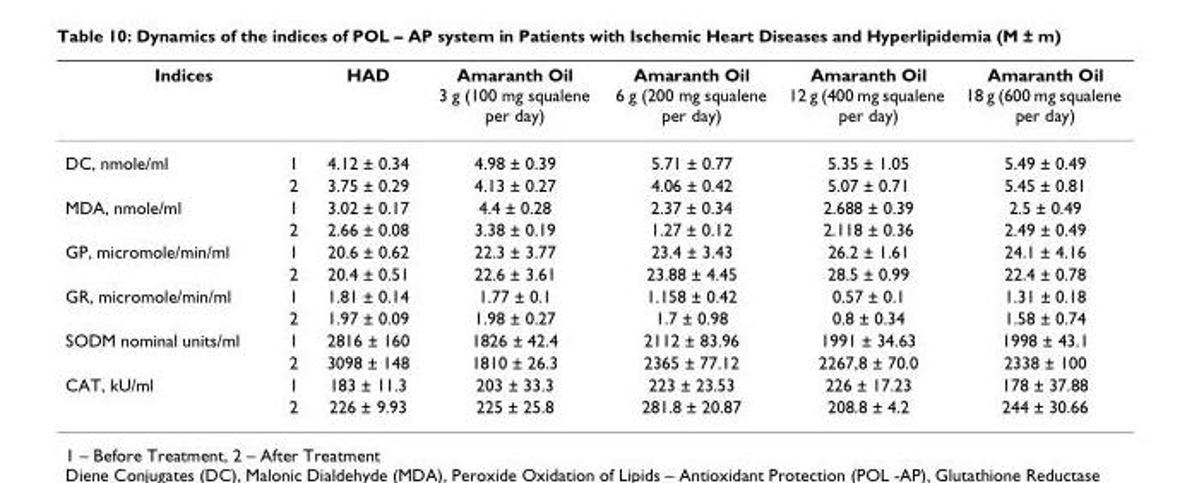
<table><thead><tr><td colspan="2">Indices</td><td rowspan="2">HAD 4.12 ± 0.34</td><td rowspan="2">Amaranth Oil 3 g (100 mg squalene per day) 4.98 ± 0.39</td><td rowspan="2">Amaranth Oil 6 g (200 mg squalene per day) 5.71 ± 0.77</td><td rowspan="2">Amaranth Oil 12 g (400 mg squalene per day) 5.35 ± 1.05</td><td rowspan="2">Amaranth Oil 18 g (600 mg squalene per day) 5.49 ± 0.49</td></tr><tr><td>DC, nmole/ml</td><td>1</td></tr></thead><tbody><tr><td></td><td>2</td><td>3.75 ± 0.29</td><td>4.13 ± 0.27</td><td>4.06 ± 0.42</td><td>5.07 ± 0.71</td><td>5.45 ± 0.81</td></tr><tr><td rowspan="2">MDA, nmole/ml</td><td>1</td><td>3.02 ± 0.17</td><td>4.4 ± 0.28</td><td>2.37 ± 0.34</td><td>2.688 ± 0.39</td><td>2.5 ± 0.49</td></tr><tr><td>2</td><td>2.66 ± 0.08</td><td>3.38 ± 0.19</td><td>1.27 ± 0.12</td><td>2.118 ± 0.36</td><td>2.49 ± 0.49</td></tr><tr><td rowspan="2">GP, micromole/min/ml</td><td>1</td><td>20.6 ± 0.62</td><td>22.3 ± 3.77</td><td>23.4 ± 3.43</td><td>26.2 ± 1.61</td><td>24.1 ± 4.16</td></tr><tr><td>2</td><td>20.4 ± 0.51</td><td>22.6 ± 3.61</td><td>23.88 ± 4.45</td><td>28.5 ± 0.99</td><td>22.4 ± 0.78</td></tr><tr><td rowspan="2">GR, micromole/min/ml</td><td>1</td><td>1.81 ± 0.14</td><td>1.77 ± 0.1</td><td>1.158 ± 0.42</td><td>0.57 ± 0.1</td><td>1.31 ± 0.18</td></tr><tr><td>2</td><td>1.97 ± 0.09</td><td>1.98 ± 0.27</td><td>1.7 ± 0.98</td><td>0.8 ± 0.34</td><td>1.58 ± 0.74</td></tr><tr><td rowspan="2">SODM nominal units/ml</td><td>1</td><td>2816 ± 160</td><td>1826 ± 42.4</td><td>2112 ± 83.96</td><td>1991 ± 34.63</td><td>1998 ± 43.1</td></tr><tr><td>2</td><td>3098 ± 148</td><td>1810 ± 26.3</td><td>2365 ± 77.12</td><td>2267,8 ± 70.0</td><td>2338 ± 100</td></tr><tr><td rowspan="2">CAT, kU/ml</td><td>1</td><td>183 ± 11.3</td><td>203 ± 33.3</td><td>223 ± 23.53</td><td>226 ± 17.23</td><td>178 ± 37.88</td></tr><tr><td>2</td><td>226 ± 9.93</td><td>225 ± 25.8</td><td>281.8 ± 20.87</td><td>208.8 ± 4.2</td><td>244 ± 30.66</td></tr></tbody></table>